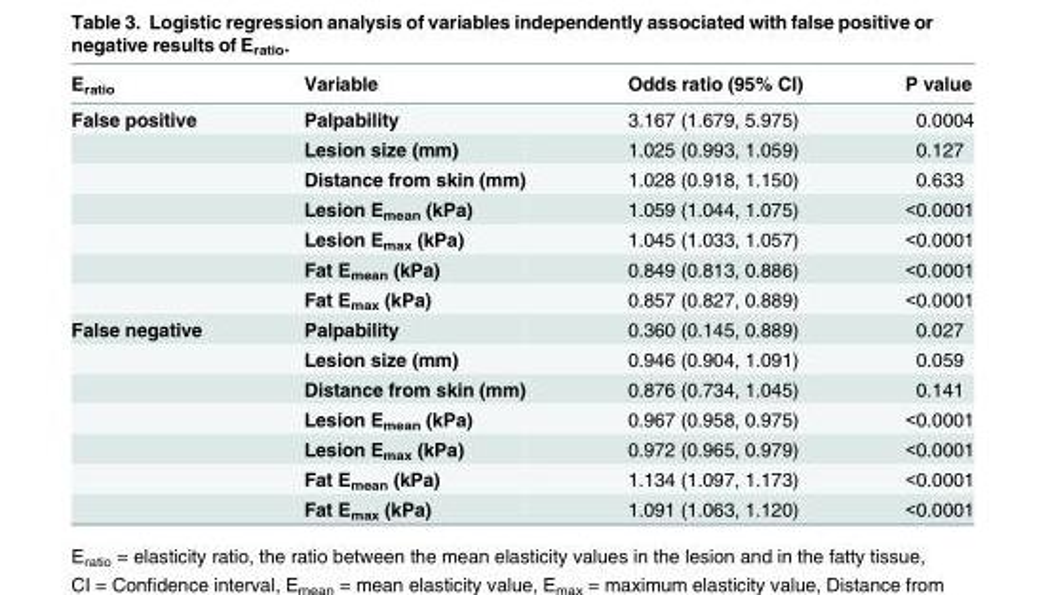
<table><thead><tr><td>E<sub>ratio</sub></td><td>Variable</td><td>Odds ratio (95% CI)</td><td>P value</td></tr></thead><tbody><tr><td rowspan="7">False positive</td><td>Palpability</td><td>3.167 (1.679, 5.975)</td><td>0.0004</td></tr><tr><td>Lesion size (mm)</td><td>1.025 (0.993, 1.059)</td><td>0.127</td></tr><tr><td>Distance from skin (mm)</td><td>1.028 (0.918, 1.150)</td><td>0.633</td></tr><tr><td>Lesion E<sub>mean</sub> (kPa)</td><td>1.059 (1.044, 1.075)</td><td>&lt;0.0001</td></tr><tr><td>Lesion E<sub>max</sub> (kPa)</td><td>1.045 (1.033, 1.057)</td><td>&lt;0.0001</td></tr><tr><td>Fat E<sub>mean</sub> (kPa)</td><td>0.849 (0.813, 0.886)</td><td>&lt;0.0001</td></tr><tr><td>Fat E<sub>max</sub> (kPa)</td><td>0.857 (0.827, 0.889)</td><td>&lt;0.0001</td></tr><tr><td rowspan="7">False negative</td><td>Palpability</td><td>0.360 (0.145, 0.889)</td><td>0.027</td></tr><tr><td>Lesion size (mm)</td><td>0.946 (0.904, 1.091)</td><td>0.059</td></tr><tr><td>Distance from skin (mm)</td><td>0.876 (0.734, 1.045)</td><td>0.141</td></tr><tr><td>Lesion E<sub>mean</sub> (kPa)</td><td>0.967 (0.958, 0.975)</td><td>&lt;0.0001</td></tr><tr><td>Lesion E<sub>max</sub> (kPa)</td><td>0.972 (0.965, 0.979)</td><td>&lt;0.0001</td></tr><tr><td>Fat E<sub>mean</sub> (kPa)</td><td>1.134 (1.097, 1.173)</td><td>&lt;0.0001</td></tr><tr><td>Fat E<sub>max</sub> (kPa)</td><td>1.091 (1.063, 1.120)</td><td>&lt;0.0001</td></tr></tbody></table>